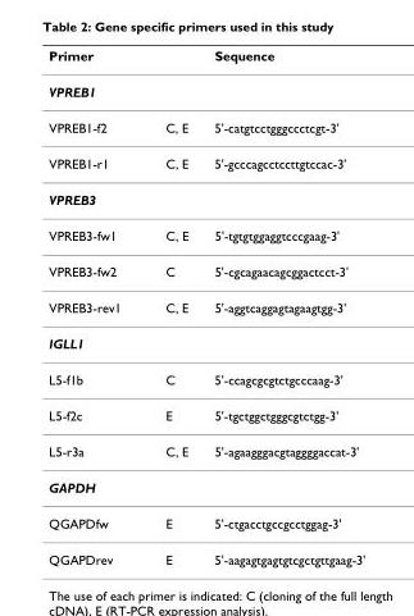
<table><thead><tr><td>Primer</td><td></td><td>Sequence</td></tr></thead><tbody><tr><td colspan="3">VPREB1</td></tr><tr><td>VPREB1-f2</td><td>C, E</td><td>5&#x27;-catgtcctgggccctcgt-3&#x27;</td></tr><tr><td>VPREB1-r1</td><td>C, E</td><td>5&#x27;-gcccagcctccttgtccac-3&#x27;</td></tr><tr><td colspan="3">VPREB3</td></tr><tr><td>VPREB3-fw1</td><td>C, E</td><td>5&#x27;-tgtgtggaggtcccgaag-3&#x27;</td></tr><tr><td>VPREB3-fw2</td><td>C</td><td>5&#x27;-cgcagaacagcggactcct-3&#x27;</td></tr><tr><td>VPREB3-rev1</td><td>C, E</td><td>5&#x27;-aggtcaggagtagaagtgg-3&#x27;</td></tr><tr><td colspan="3">IGLL1</td></tr><tr><td>L5-f1b</td><td>C</td><td>5&#x27;-ccagcgcgtctgcccaag-3&#x27;</td></tr><tr><td>L5-f2c</td><td>E</td><td>5&#x27;-tgctggctgggcgtctgg-3&#x27;</td></tr><tr><td>L5-r3a</td><td>C, E</td><td>5&#x27;-agaagggacgtaggggaccat-3&#x27;</td></tr><tr><td colspan="3">GAPDH</td></tr><tr><td>QGAPDfw</td><td>E</td><td>5&#x27;-ctgacctgccgcctggag-3&#x27;</td></tr><tr><td>QGAPDrev</td><td>E</td><td>5&#x27;-aagagtgagtgtcgctgttgaag-3&#x27;</td></tr></tbody></table>